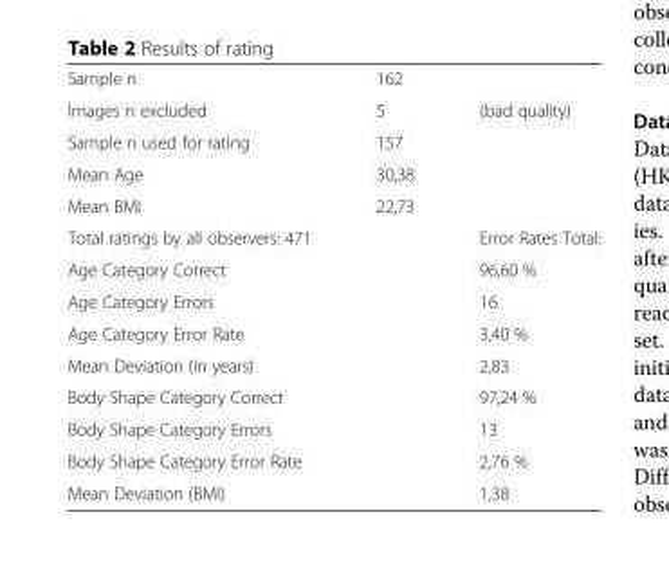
<table><tbody><tr><td>Sample n</td><td>162</td><td></td></tr><tr><td>Images n excluded</td><td>5</td><td>(bad quality)</td></tr><tr><td>Sample n used for rating</td><td>157</td><td></td></tr><tr><td>Mean Age</td><td>30,38</td><td></td></tr><tr><td>Mean BMI</td><td>22,73</td><td></td></tr><tr><td>Total ratings by all observers: 471</td><td></td><td>Error Rates Total:</td></tr><tr><td>Age Category Correct</td><td></td><td>96,60 %</td></tr><tr><td>Age Category Errors</td><td></td><td>16</td></tr><tr><td>Age Category Error Rate</td><td></td><td>3,40 %</td></tr><tr><td>Mean Deviation (in years)</td><td></td><td>2,83</td></tr><tr><td>Body Shape Category Correct</td><td></td><td>97,24 %</td></tr><tr><td>Body Shape Category Errors</td><td></td><td>13</td></tr><tr><td>Body Shape Category Error Rate</td><td></td><td>2,76 %</td></tr><tr><td>Mean Deviation (BMI)</td><td></td><td>1,38</td></tr></tbody></table>